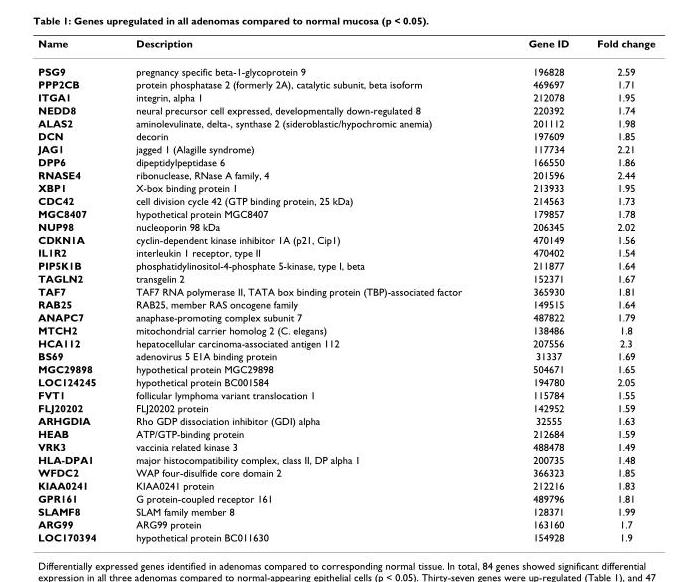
<table><thead><tr><td>Name</td><td>Description</td><td>Gene ID</td><td>Fold change</td></tr></thead><tbody><tr><td>PSG9</td><td>pregnancy specific beta-1-glycoprotein 9</td><td>196828</td><td>2.59</td></tr><tr><td>PPP2CB</td><td>protein phosphatase 2 (formerly 2A), catalytic subunit, beta isoform</td><td>469697</td><td>1.71</td></tr><tr><td>ITGA1</td><td>integrin, alpha 1</td><td>212078</td><td>1.95</td></tr><tr><td>NEDD8</td><td>neural precursor cell expressed, developmentally down-regulated 8</td><td>220392</td><td>1.74</td></tr><tr><td>ALAS2</td><td>aminolevulinate, delta-, synthase 2 (sideroblastic/hypochromic anemia)</td><td>201112</td><td>1.98</td></tr><tr><td>DCN</td><td>decorin</td><td>197609</td><td>1.85</td></tr><tr><td>JAG1</td><td>jagged 1 (Alagille syndrome)</td><td>117734</td><td>2.21</td></tr><tr><td>DPP6</td><td>dipeptidylpeptidase 6</td><td>166550</td><td>1.86</td></tr><tr><td>RNASE4</td><td>ribonuclease, RNase A family, 4</td><td>201596</td><td>2.44</td></tr><tr><td>XBP1</td><td>X-box binding protein 1</td><td>213933</td><td>1.95</td></tr><tr><td>CDC42</td><td>cell division cycle 42 (GTP binding protein, 25 kDa)</td><td>214563</td><td>1.73</td></tr><tr><td>MGC8407</td><td>hypothetical protein MGC8407</td><td>179857</td><td>1.78</td></tr><tr><td>NUP98</td><td>nucleoporin 98 kDa</td><td>206345</td><td>2.02</td></tr><tr><td>CDKN1A</td><td>cyclin-dependent kinase inhibitor 1A (p21, Cip1)</td><td>470149</td><td>1.56</td></tr><tr><td>IL1R2</td><td>interleukin 1 receptor, type II</td><td>470402</td><td>1.54</td></tr><tr><td>PIP5K1B</td><td>phosphatidylinositol-4-phosphate 5-kinase, type I, beta</td><td>211877</td><td>1.64</td></tr><tr><td>TAGLN2</td><td>transgelin 2</td><td>152371</td><td>1.67</td></tr><tr><td>TAF7</td><td>TAF7 RNA polymerase II, TATA box binding protein (TBP)-associated factor</td><td>365930</td><td>1.81</td></tr><tr><td>RAB25</td><td>RAB25, member RAS oncogene family</td><td>149515</td><td>1.64</td></tr><tr><td>ANAPC7</td><td>anaphase-promoting complex subunit 7</td><td>487822</td><td>1.79</td></tr><tr><td>MTCH2</td><td>mitochondrial carrier homolog 2 (C. elegans)</td><td>138486</td><td>1.8</td></tr><tr><td>HCA112</td><td>hepatocellular carcinoma-associated antigen 112</td><td>207556</td><td>2.3</td></tr><tr><td>BS69</td><td>adenovirus 5 E1A binding protein</td><td>31337</td><td>1.69</td></tr><tr><td>MGC29898</td><td>hypothetical protein MGC29898</td><td>504671</td><td>1.65</td></tr><tr><td>LOC124245</td><td>hypothetical protein BC001584</td><td>194780</td><td>2.05</td></tr><tr><td>FVT1</td><td>follicular lymphoma variant translocation 1</td><td>115784</td><td>1.55</td></tr><tr><td>FLJ20202</td><td>FLJ20202 protein</td><td>142952</td><td>1.59</td></tr><tr><td>ARHGDIA</td><td>Rho GDP dissociation inhibitor (GDI) alpha</td><td>32555</td><td>1.63</td></tr><tr><td>HEAB</td><td>ATP/GTP-binding protein</td><td>212684</td><td>1.59</td></tr><tr><td>VRK3</td><td>vaccinia related kinase 3</td><td>488478</td><td>1.49</td></tr><tr><td>HLA-DPA1</td><td>major histocompatibility complex, class II, DP alpha 1</td><td>200735</td><td>1.48</td></tr><tr><td>WFDC2</td><td>WAP four-disulfide core domain 2</td><td>366323</td><td>1.85</td></tr><tr><td>KIAA0241</td><td>KIAA0241 protein</td><td>212216</td><td>1.83</td></tr><tr><td>GPR161</td><td>G protein-coupled receptor 161</td><td>489796</td><td>1.81</td></tr><tr><td>SLAMF8</td><td>SLAM family member 8</td><td>128371</td><td>1.99</td></tr><tr><td>ARG99</td><td>ARG99 protein</td><td>163160</td><td>1.7</td></tr><tr><td>LOC170394</td><td>hypothetical protein BC011630</td><td>154928</td><td>1.9</td></tr></tbody></table>